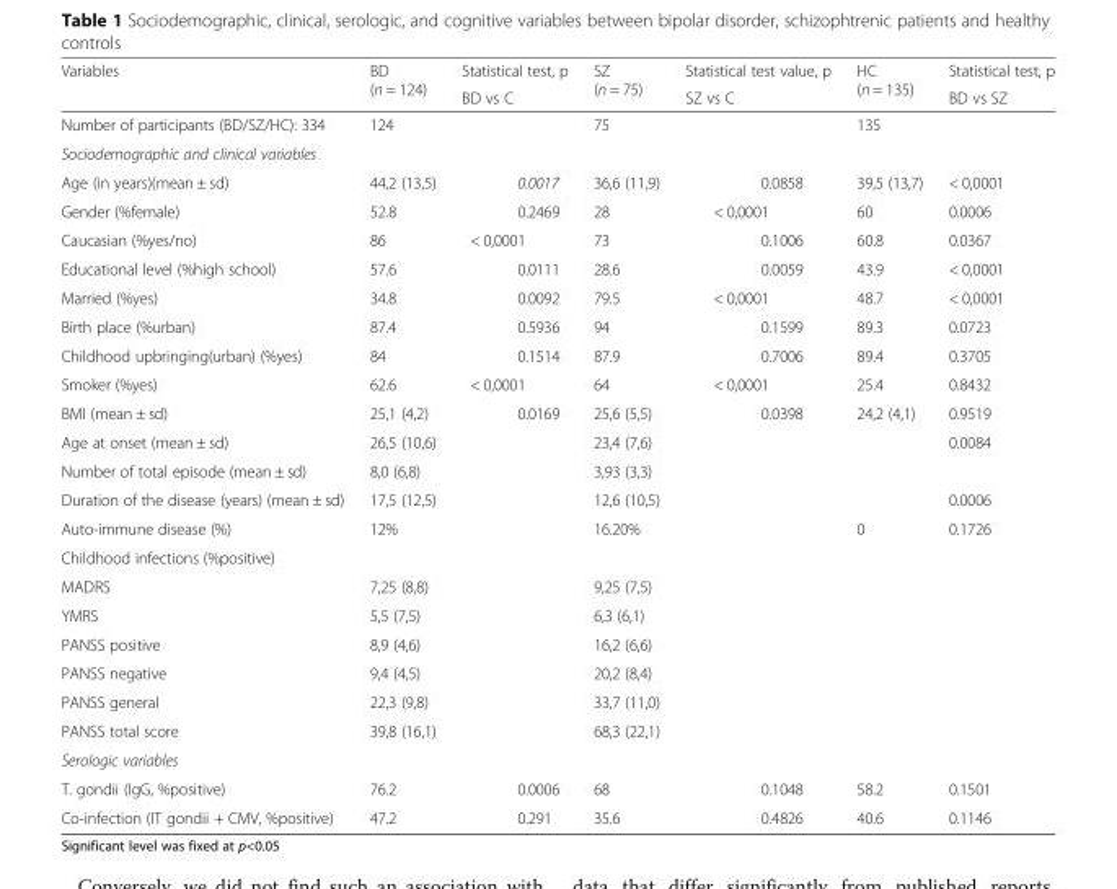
<table><thead><tr><td rowspan="2">Variables</td><td rowspan="2">BD (n = 124)</td><td rowspan="2">Statistical test, p BD vs C</td><td rowspan="2">SZ (n = 75)</td><td rowspan="2">Statistical test value, p SZ vs C</td><td rowspan="2">HC (n = 135)</td><td rowspan="2">Statistical test, p BD vs SZ</td></tr><tr></tr></thead><tbody><tr><td>Number of participants (BD/SZ/HC): 334</td><td>124</td><td></td><td>75</td><td></td><td>135</td><td></td></tr><tr><td colspan="7">Sociodemographic and clinical variables</td></tr><tr><td>Age (in years)(mean ± sd)</td><td>44,2 (13,5)</td><td>0.0017</td><td>36,6 (11,9)</td><td>0.0858</td><td>39,5 (13,7)</td><td>&lt; 0,0001</td></tr><tr><td>Gender (%female)</td><td>52.8</td><td>0.2469</td><td>28</td><td>&lt; 0,0001</td><td>60</td><td>0.0006</td></tr><tr><td>Caucasian (%yes/no)</td><td>86</td><td>&lt; 0,0001</td><td>73</td><td>0.1006</td><td>60.8</td><td>0.0367</td></tr><tr><td>Educational level (%high school)</td><td>57.6</td><td>0.0111</td><td>28.6</td><td>0.0059</td><td>43.9</td><td>&lt; 0,0001</td></tr><tr><td>Married (%yes)</td><td>34.8</td><td>0.0092</td><td>79.5</td><td>&lt; 0,0001</td><td>48.7</td><td>&lt; 0,0001</td></tr><tr><td>Birth place (%urban)</td><td>87.4</td><td>0.5936</td><td>94</td><td>0.1599</td><td>89.3</td><td>0.0723</td></tr><tr><td>Childhood upbringing(urban) (%yes)</td><td>84</td><td>0.1514</td><td>87.9</td><td>0.7006</td><td>89.4</td><td>0.3705</td></tr><tr><td>Smoker (%yes)</td><td>62.6</td><td>&lt; 0,0001</td><td>64</td><td>&lt; 0,0001</td><td>25.4</td><td>0.8432</td></tr><tr><td>BMI (mean ± sd)</td><td>25,1 (4,2)</td><td>0.0169</td><td>25,6 (5,5)</td><td>0.0398</td><td>24,2 (4,1)</td><td>0.9519</td></tr><tr><td>Age at onset (mean ± sd)</td><td>26,5 (10,6)</td><td></td><td>23,4 (7,6)</td><td></td><td></td><td>0.0084</td></tr><tr><td>Number of total episode (mean ± sd)</td><td>8,0 (6,8)</td><td></td><td>3,93 (3,3)</td><td></td><td></td><td></td></tr><tr><td>Duration of the disease (years) (mean ± sd)</td><td>17,5 (12,5)</td><td></td><td>12,6 (10,5)</td><td></td><td></td><td>0.0006</td></tr><tr><td>Auto-immune disease (%)</td><td>12%</td><td></td><td>16.20%</td><td></td><td>0</td><td>0.1726</td></tr><tr><td colspan="7">Childhood infections (%positive)</td></tr><tr><td>MADRS</td><td>7,25 (8,8)</td><td></td><td>9,25 (7,5)</td><td></td><td></td><td></td></tr><tr><td>YMRS</td><td>5,5 (7,5)</td><td></td><td>6,3 (6,1)</td><td></td><td></td><td></td></tr><tr><td>PANSS positive</td><td>8,9 (4,6)</td><td></td><td>16,2 (6,6)</td><td></td><td></td><td></td></tr><tr><td>PANSS negative</td><td>9,4 (4,5)</td><td></td><td>20,2 (8,4)</td><td></td><td></td><td></td></tr><tr><td>PANSS general</td><td>22,3 (9,8)</td><td></td><td>33,7 (11,0)</td><td></td><td></td><td></td></tr><tr><td>PANSS total score</td><td>39,8 (16,1)</td><td></td><td>68,3 (22,1)</td><td></td><td></td><td></td></tr><tr><td colspan="7">Serologic variables</td></tr><tr><td>T. gondii (IgG, %positive)</td><td>76.2</td><td>0.0006</td><td>68</td><td>0.1048</td><td>58.2</td><td>0.1501</td></tr><tr><td>Co-infection (IT gondii + CMV, %positive)</td><td>47.2</td><td>0.291</td><td>35.6</td><td>0.4826</td><td>40.6</td><td>0.1146</td></tr></tbody></table>